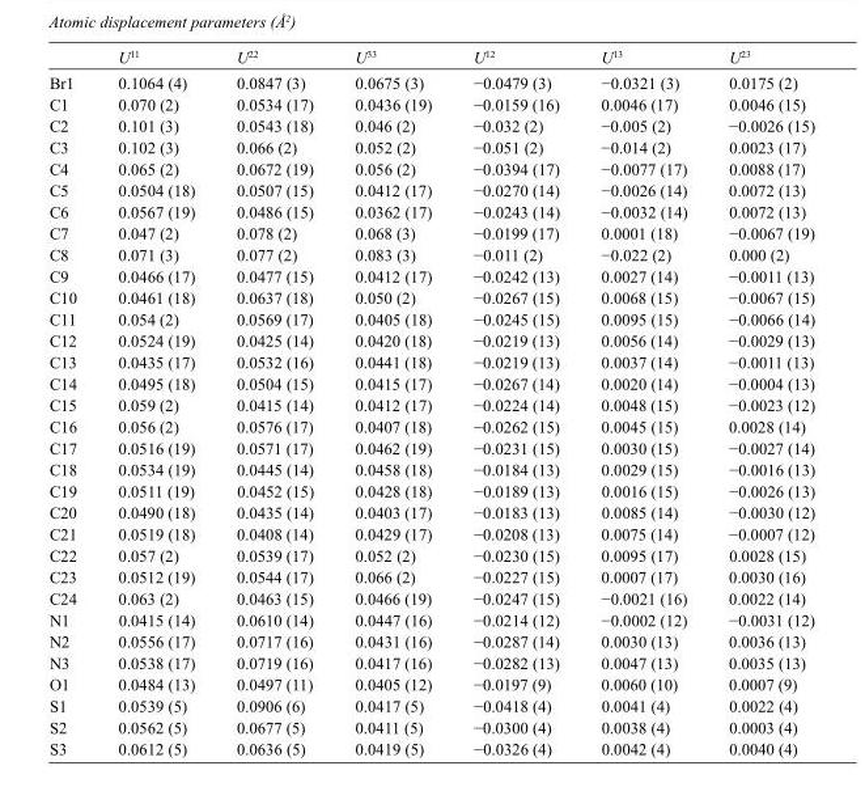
<table><thead><tr><td></td><td>U<sup>11</sup></td><td>U<sup>22</sup></td><td>U<sup>33</sup></td><td>U<sup>12</sup></td><td>U<sup>13</sup></td><td>U<sup>23</sup></td></tr></thead><tbody><tr><td>Br1</td><td>0.1064 (4)</td><td>0.0847 (3)</td><td>0.0675 (3)</td><td>−0.0479 (3)</td><td>−0.0321 (3)</td><td>0.0175 (2)</td></tr><tr><td>C1</td><td>0.070 (2)</td><td>0.0534 (17)</td><td>0.0436 (19)</td><td>−0.0159 (16)</td><td>0.0046 (17)</td><td>0.0046 (15)</td></tr><tr><td>C2</td><td>0.101 (3)</td><td>0.0543 (18)</td><td>0.046 (2)</td><td>−0.032 (2)</td><td>−0.005 (2)</td><td>−0.0026 (15)</td></tr><tr><td>C3</td><td>0.102 (3)</td><td>0.066 (2)</td><td>0.052 (2)</td><td>−0.051 (2)</td><td>−0.014 (2)</td><td>0.0023 (17)</td></tr><tr><td>C4</td><td>0.065 (2)</td><td>0.0672 (19)</td><td>0.056 (2)</td><td>−0.0394 (17)</td><td>−0.0077 (17)</td><td>0.0088 (17)</td></tr><tr><td>C5</td><td>0.0504 (18)</td><td>0.0507 (15)</td><td>0.0412 (17)</td><td>−0.0270 (14)</td><td>−0.0026 (14)</td><td>0.0072 (13)</td></tr><tr><td>C6</td><td>0.0567 (19)</td><td>0.0486 (15)</td><td>0.0362 (17)</td><td>−0.0243 (14)</td><td>−0.0032 (14)</td><td>0.0072 (13)</td></tr><tr><td>C7</td><td>0.047 (2)</td><td>0.078 (2)</td><td>0.068 (3)</td><td>−0.0199 (17)</td><td>0.0001 (18)</td><td>−0.0067 (19)</td></tr><tr><td>C8</td><td>0.071 (3)</td><td>0.077 (2)</td><td>0.083 (3)</td><td>−0.011 (2)</td><td>−0.022 (2)</td><td>0.000 (2)</td></tr><tr><td>C9</td><td>0.0466 (17)</td><td>0.0477 (15)</td><td>0.0412 (17)</td><td>−0.0242 (13)</td><td>0.0027 (14)</td><td>−0.0011 (13)</td></tr><tr><td>C10</td><td>0.0461 (18)</td><td>0.0637 (18)</td><td>0.050 (2)</td><td>−0.0267 (15)</td><td>0.0068 (15)</td><td>−0.0067 (15)</td></tr><tr><td>C11</td><td>0.054 (2)</td><td>0.0569 (17)</td><td>0.0405 (18)</td><td>−0.0245 (15)</td><td>0.0095 (15)</td><td>−0.0066 (14)</td></tr><tr><td>C12</td><td>0.0524 (19)</td><td>0.0425 (14)</td><td>0.0420 (18)</td><td>−0.0219 (13)</td><td>0.0056 (14)</td><td>−0.0029 (13)</td></tr><tr><td>C13</td><td>0.0435 (17)</td><td>0.0532 (16)</td><td>0.0441 (18)</td><td>−0.0219 (13)</td><td>0.0037 (14)</td><td>−0.0011 (13)</td></tr><tr><td>C14</td><td>0.0495 (18)</td><td>0.0504 (15)</td><td>0.0415 (17)</td><td>−0.0267 (14)</td><td>0.0020 (14)</td><td>−0.0004 (13)</td></tr><tr><td>C15</td><td>0.059 (2)</td><td>0.0415 (14)</td><td>0.0412 (17)</td><td>−0.0224 (14)</td><td>0.0048 (15)</td><td>−0.0023 (12)</td></tr><tr><td>C16</td><td>0.056 (2)</td><td>0.0576 (17)</td><td>0.0407 (18)</td><td>−0.0262 (15)</td><td>0.0045 (15)</td><td>0.0028 (14)</td></tr><tr><td>C17</td><td>0.0516 (19)</td><td>0.0571 (17)</td><td>0.0462 (19)</td><td>−0.0231 (15)</td><td>0.0030 (15)</td><td>−0.0027 (14)</td></tr><tr><td>C18</td><td>0.0534 (19)</td><td>0.0445 (14)</td><td>0.0458 (18)</td><td>−0.0184 (13)</td><td>0.0029 (15)</td><td>−0.0016 (13)</td></tr><tr><td>C19</td><td>0.0511 (19)</td><td>0.0452 (15)</td><td>0.0428 (18)</td><td>−0.0189 (13)</td><td>0.0016 (15)</td><td>−0.0026 (13)</td></tr><tr><td>C20</td><td>0.0490 (18)</td><td>0.0435 (14)</td><td>0.0403 (17)</td><td>−0.0183 (13)</td><td>0.0085 (14)</td><td>−0.0030 (12)</td></tr><tr><td>C21</td><td>0.0519 (18)</td><td>0.0408 (14)</td><td>0.0429 (17)</td><td>−0.0208 (13)</td><td>0.0075 (14)</td><td>−0.0007 (12)</td></tr><tr><td>C22</td><td>0.057 (2)</td><td>0.0539 (17)</td><td>0.052 (2)</td><td>−0.0230 (15)</td><td>0.0095 (17)</td><td>0.0028 (15)</td></tr><tr><td>C23</td><td>0.0512 (19)</td><td>0.0544 (17)</td><td>0.066 (2)</td><td>−0.0227 (15)</td><td>0.0007 (17)</td><td>0.0030 (16)</td></tr><tr><td>C24</td><td>0.063 (2)</td><td>0.0463 (15)</td><td>0.0466 (19)</td><td>−0.0247 (15)</td><td>−0.0021 (16)</td><td>0.0022 (14)</td></tr><tr><td>N1</td><td>0.0415 (14)</td><td>0.0610 (14)</td><td>0.0447 (16)</td><td>−0.0214 (12)</td><td>−0.0002 (12)</td><td>−0.0031 (12)</td></tr><tr><td>N2</td><td>0.0556 (17)</td><td>0.0717 (16)</td><td>0.0431 (16)</td><td>−0.0287 (14)</td><td>0.0030 (13)</td><td>0.0036 (13)</td></tr><tr><td>N3</td><td>0.0538 (17)</td><td>0.0719 (16)</td><td>0.0417 (16)</td><td>−0.0282 (13)</td><td>0.0047 (13)</td><td>0.0035 (13)</td></tr><tr><td>O1</td><td>0.0484 (13)</td><td>0.0497 (11)</td><td>0.0405 (12)</td><td>−0.0197 (9)</td><td>0.0060 (10)</td><td>0.0007 (9)</td></tr><tr><td>S1</td><td>0.0539 (5)</td><td>0.0906 (6)</td><td>0.0417 (5)</td><td>−0.0418 (4)</td><td>0.0041 (4)</td><td>0.0022 (4)</td></tr><tr><td>S2</td><td>0.0562 (5)</td><td>0.0677 (5)</td><td>0.0411 (5)</td><td>−0.0300 (4)</td><td>0.0038 (4)</td><td>0.0003 (4)</td></tr><tr><td>S3</td><td>0.0612 (5)</td><td>0.0636 (5)</td><td>0.0419 (5)</td><td>−0.0326 (4)</td><td>0.0042 (4)</td><td>0.0040 (4)</td></tr></tbody></table>